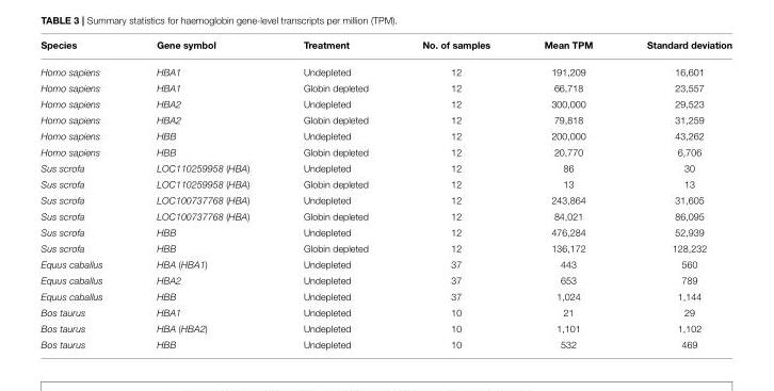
<table><thead><tr><td>Species</td><td>Gene symbol</td><td>Treatment</td><td>No. of samples</td><td>Mean TPM</td><td>Standard deviation</td></tr></thead><tbody><tr><td>Homo sapiens</td><td>HBA1</td><td>Undepleted</td><td>12</td><td>191,209</td><td>16,601</td></tr><tr><td>Homo sapiens</td><td>HBA1</td><td>Globin depleted</td><td>12</td><td>66,718</td><td>23,557</td></tr><tr><td>Homo sapiens</td><td>HBA2</td><td>Undepleted</td><td>12</td><td>300,000</td><td>29,523</td></tr><tr><td>Homo sapiens</td><td>HBA2</td><td>Globin depleted</td><td>12</td><td>79,818</td><td>31,259</td></tr><tr><td>Homo sapiens</td><td>HBB</td><td>Undepleted</td><td>12</td><td>200,000</td><td>43,262</td></tr><tr><td>Homo sapiens</td><td>HBB</td><td>Globin depleted</td><td>12</td><td>20,770</td><td>6,706</td></tr><tr><td>Sus scrofa</td><td>LOC110259958 (HBA)</td><td>Undepleted</td><td>12</td><td>86</td><td>30</td></tr><tr><td>Sus scrofa</td><td>LOC110259958 (HBA)</td><td>Globin depleted</td><td>12</td><td>13</td><td>13</td></tr><tr><td>Sus scrofa</td><td>LOC100737768 (HBA)</td><td>Undepleted</td><td>12</td><td>243,864</td><td>31,605</td></tr><tr><td>Sus scrofa</td><td>LOC100737768 (HBA)</td><td>Globin depleted</td><td>12</td><td>84,021</td><td>86,095</td></tr><tr><td>Sus scrofa</td><td>HBB</td><td>Undepleted</td><td>12</td><td>476,284</td><td>52,939</td></tr><tr><td>Sus scrofa</td><td>HBB</td><td>Globin depleted</td><td>12</td><td>136,172</td><td>128,232</td></tr><tr><td>Equus caballus</td><td>HBA (HBA1)</td><td>Undepleted</td><td>37</td><td>443</td><td>560</td></tr><tr><td>Equus caballus</td><td>HBA2</td><td>Undepleted</td><td>37</td><td>653</td><td>789</td></tr><tr><td>Equus caballus</td><td>HBB</td><td>Undepleted</td><td>37</td><td>1,024</td><td>1,144</td></tr><tr><td>Bos taurus</td><td>HBA1</td><td>Undepleted</td><td>10</td><td>21</td><td>29</td></tr><tr><td>Bos taurus</td><td>HBA (HBA2)</td><td>Undepleted</td><td>10</td><td>1,101</td><td>1,102</td></tr><tr><td>Bos taurus</td><td>HBB</td><td>Undepleted</td><td>10</td><td>532</td><td>469</td></tr></tbody></table>